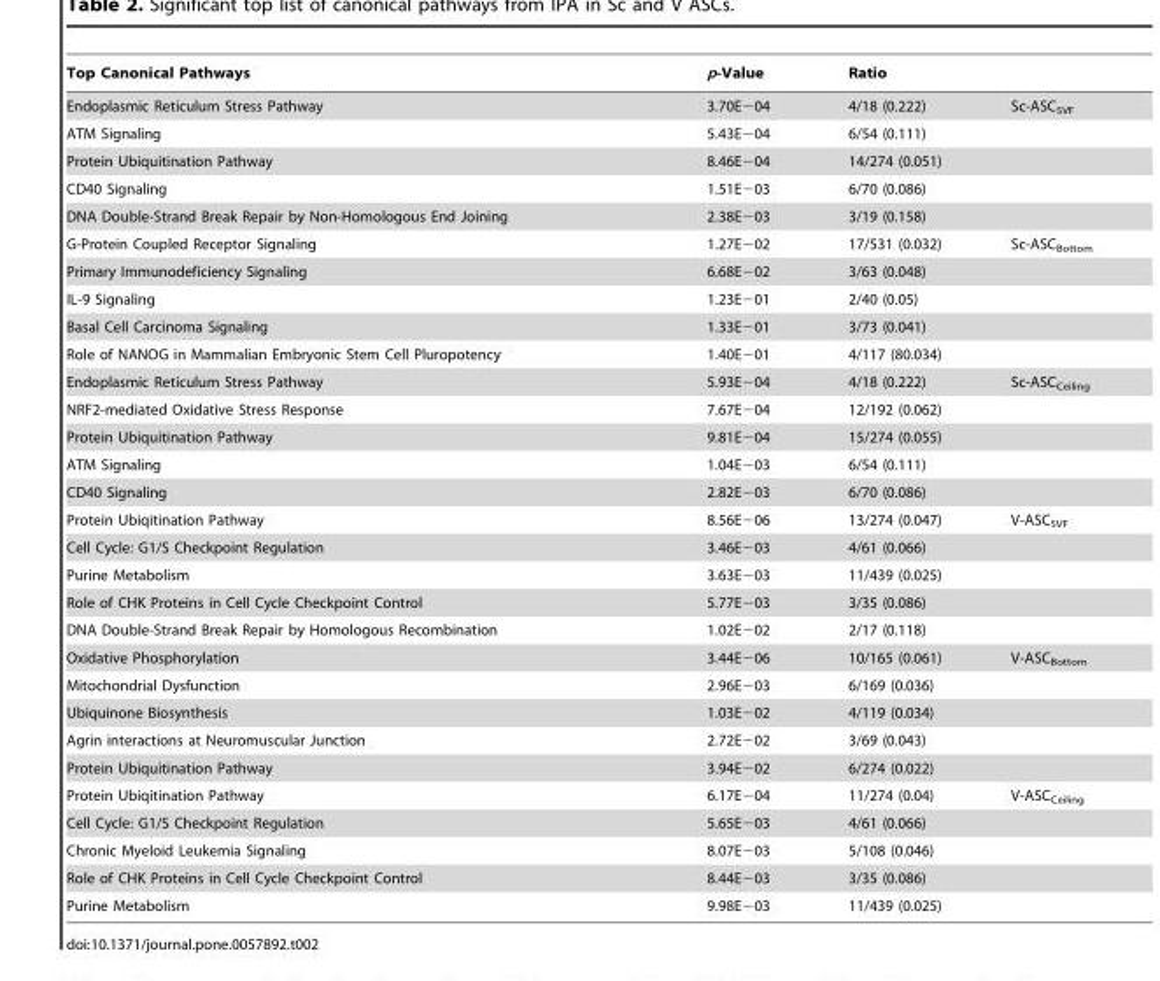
<table><thead><tr><td>Top Canonical Pathways</td><td>p-Value</td><td>Ratio</td><td></td></tr></thead><tbody><tr><td>Endoplasmic Reticulum Stress Pathway</td><td>3.70E−04</td><td>4/18 (0.222)</td><td>Sc-ASC<sub>SVF</sub></td></tr><tr><td>ATM Signaling</td><td>5.43E−04</td><td>6/54 (0.111)</td><td></td></tr><tr><td>Protein Ubiquitination Pathway</td><td>8.46E−04</td><td>14/274 (0.051)</td><td></td></tr><tr><td>CD40 Signaling</td><td>1.51E−03</td><td>6/70 (0.086)</td><td></td></tr><tr><td>DNA Double-Strand Break Repair by Non-Homologous End Joining</td><td>2.38E−03</td><td>3/19 (0.158)</td><td></td></tr><tr><td>G-Protein Coupled Receptor Signaling</td><td>1.27E−02</td><td>17/531 (0.032)</td><td>Sc-ASC<sub>Bottom</sub></td></tr><tr><td>Primary Immunodeficiency Signaling</td><td>6.68E−02</td><td>3/63 (0.048)</td><td></td></tr><tr><td>IL-9 Signaling</td><td>1.23E−01</td><td>2/40 (0.05)</td><td></td></tr><tr><td>Basal Cell Carcinoma Signaling</td><td>1.33E−01</td><td>3/73 (0.041)</td><td></td></tr><tr><td>Role of NANOG in Mammalian Embryonic Stem Cell Pluropotency</td><td>1.40E−01</td><td>4/117 (80.034)</td><td></td></tr><tr><td>Endoplasmic Reticulum Stress Pathway</td><td>5.93E−04</td><td>4/18 (0.222)</td><td>Sc-ASC<sub>Ceiling</sub></td></tr><tr><td>NRF2-mediated Oxidative Stress Response</td><td>7.67E−04</td><td>12/192 (0.062)</td><td></td></tr><tr><td>Protein Ubiquitination Pathway</td><td>9.81E−04</td><td>15/274 (0.055)</td><td></td></tr><tr><td>ATM Signaling</td><td>1.04E−03</td><td>6/54 (0.111)</td><td></td></tr><tr><td>CD40 Signaling</td><td>2.82E−03</td><td>6/70 (0.086)</td><td></td></tr><tr><td>Protein Ubiqitination Pathway</td><td>8.56E−06</td><td>13/274 (0.047)</td><td>V-ASC<sub>SVF</sub></td></tr><tr><td>Cell Cycle: G1/S Checkpoint Regulation</td><td>3.46E−03</td><td>4/61 (0.066)</td><td></td></tr><tr><td>Purine Metabolism</td><td>3.63E−03</td><td>11/439 (0.025)</td><td></td></tr><tr><td>Role of CHK Proteins in Cell Cycle Checkpoint Control</td><td>5.77E−03</td><td>3/35 (0.086)</td><td></td></tr><tr><td>DNA Double-Strand Break Repair by Homologous Recombination</td><td>1.02E−02</td><td>2/17 (0.118)</td><td></td></tr><tr><td>Oxidative Phosphorylation</td><td>3.44E−06</td><td>10/165 (0.061)</td><td>V-ASC<sub>Bottom</sub></td></tr><tr><td>Mitochondrial Dysfunction</td><td>2.96E−03</td><td>6/169 (0.036)</td><td></td></tr><tr><td>Ubiquinone Biosynthesis</td><td>1.03E−02</td><td>4/119 (0.034)</td><td></td></tr><tr><td>Agrin interactions at Neuromuscular Junction</td><td>2.72E−02</td><td>3/69 (0.043)</td><td></td></tr><tr><td>Protein Ubiquitination Pathway</td><td>3.94E−02</td><td>6/274 (0.022)</td><td></td></tr><tr><td>Protein Ubiqitination Pathway</td><td>6.17E−04</td><td>11/274 (0.04)</td><td>V-ASC<sub>Ceiling</sub></td></tr><tr><td>Cell Cycle: G1/S Checkpoint Regulation</td><td>5.65E−03</td><td>4/61 (0.066)</td><td></td></tr><tr><td>Chronic Myeloid Leukemia Signaling</td><td>8.07E−03</td><td>5/108 (0.046)</td><td></td></tr><tr><td>Role of CHK Proteins in Cell Cycle Checkpoint Control</td><td>8.44E−03</td><td>3/35 (0.086)</td><td></td></tr><tr><td>Purine Metabolism</td><td>9.98E−03</td><td>11/439 (0.025)</td><td></td></tr></tbody></table>